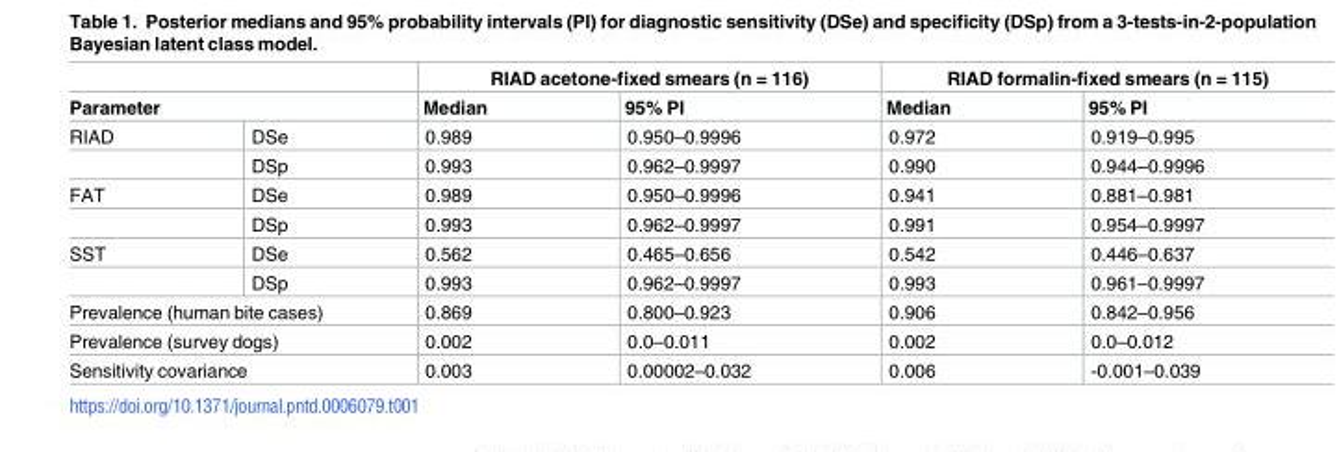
<table><thead><tr><td></td><td></td><td colspan="2">RIAD acetone-fixed smears (n = 116)</td><td colspan="2">RIAD formalin-fixed smears (n = 115)</td></tr><tr><td colspan="2">Parameter</td><td>Median</td><td>95% PI</td><td>Median</td><td>95% PI</td></tr></thead><tbody><tr><td rowspan="2">RIAD</td><td>DSe</td><td>0.989</td><td>0.950–0.9996</td><td>0.972</td><td>0.919–0.995</td></tr><tr><td>DSp</td><td>0.993</td><td>0.962–0.9997</td><td>0.990</td><td>0.944–0.9996</td></tr><tr><td rowspan="2">FAT</td><td>DSe</td><td>0.989</td><td>0.950–0.9996</td><td>0.941</td><td>0.881–0.981</td></tr><tr><td>DSp</td><td>0.993</td><td>0.962–0.9997</td><td>0.991</td><td>0.954–0.9997</td></tr><tr><td rowspan="2">SST</td><td>DSe</td><td>0.562</td><td>0.465–0.656</td><td>0.542</td><td>0.446–0.637</td></tr><tr><td>DSp</td><td>0.993</td><td>0.962–0.9997</td><td>0.993</td><td>0.961–0.9997</td></tr><tr><td colspan="2">Prevalence (human bite cases)</td><td>0.869</td><td>0.800–0.923</td><td>0.906</td><td>0.842–0.956</td></tr><tr><td colspan="2">Prevalence (survey dogs)</td><td>0.002</td><td>0.0–0.011</td><td>0.002</td><td>0.0–0.012</td></tr><tr><td colspan="2">Sensitivity covariance</td><td>0.003</td><td>0.00002–0.032</td><td>0.006</td><td>-0.001–0.039</td></tr></tbody></table>